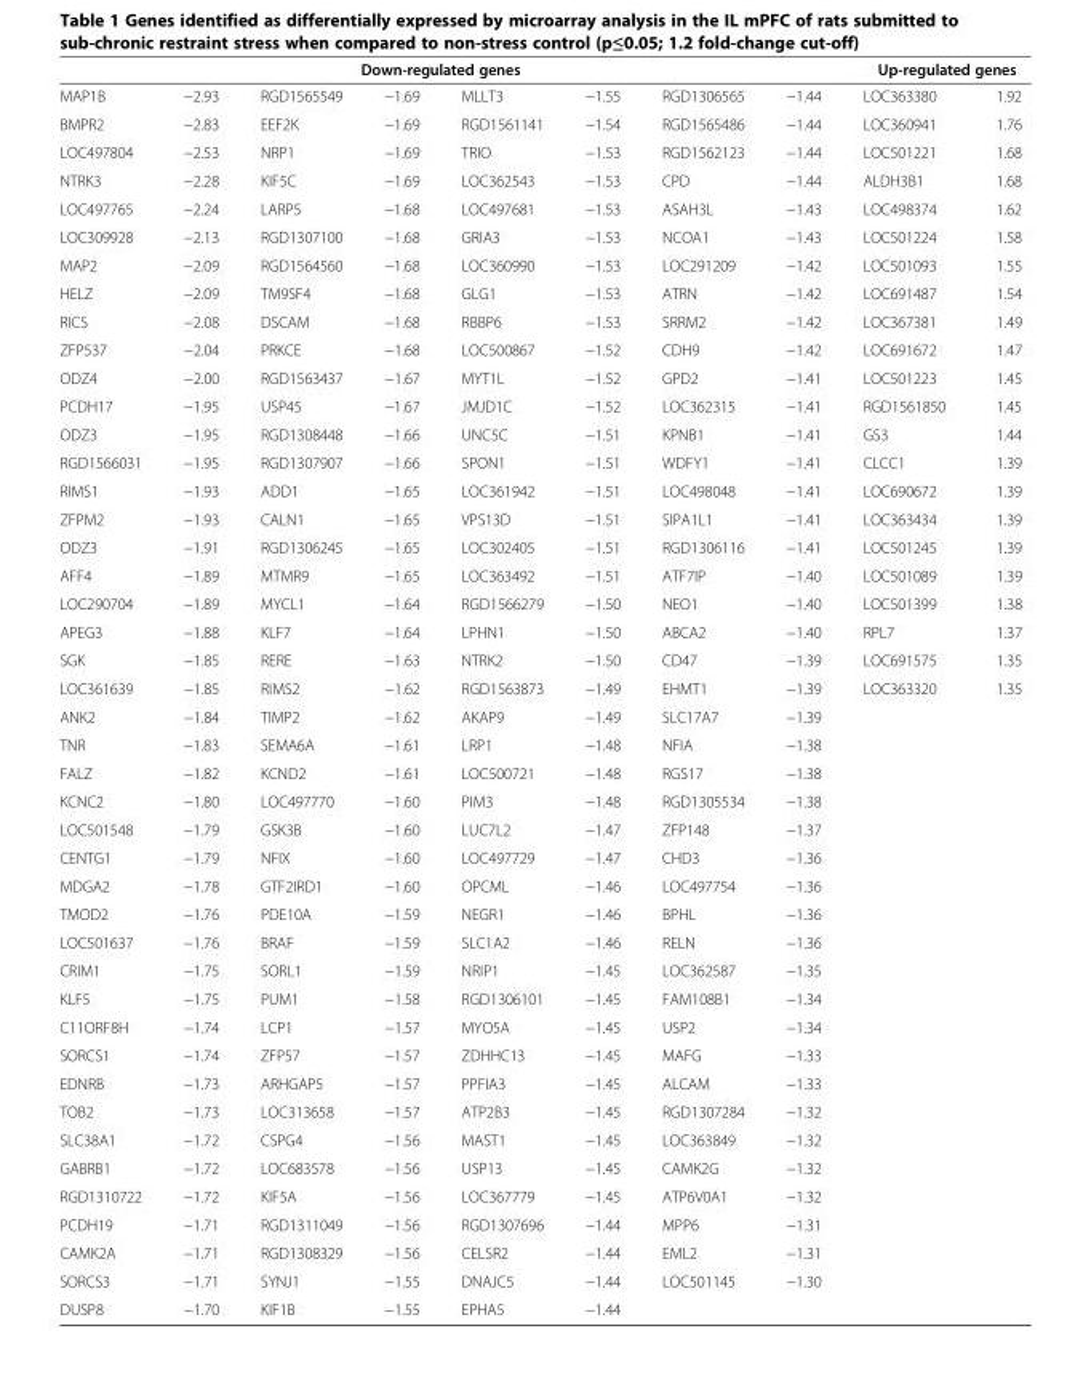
<table><thead><tr><td colspan="8">Down-regulated genes</td><td colspan="2">Up-regulated genes</td></tr><tr><td>MAP1B</td><td>−2.93</td><td>RGD1565549</td><td>−1.69</td><td>MLLT3</td><td>−1.55</td><td>RGD1306565</td><td>−1.44</td><td>LOC363380</td><td>1.92</td></tr></thead><tbody><tr><td>BMPR2</td><td>−2.83</td><td>EEF2K</td><td>−1.69</td><td>RGD1561141</td><td>−1.54</td><td>RGD1565486</td><td>−1.44</td><td>LOC360941</td><td>1.76</td></tr><tr><td>LOC497804</td><td>−2.53</td><td>NRP1</td><td>−1.69</td><td>TRIO</td><td>−1.53</td><td>RGD1562123</td><td>−1.44</td><td>LOC501221</td><td>1.68</td></tr><tr><td>NTRK3</td><td>−2.28</td><td>KIF5C</td><td>−1.69</td><td>LOC362543</td><td>−1.53</td><td>CPD</td><td>−1.44</td><td>ALDH3B1</td><td>1.68</td></tr><tr><td>LOC497765</td><td>−2.24</td><td>LARP5</td><td>−1.68</td><td>LOC497681</td><td>−1.53</td><td>ASAH3L</td><td>−1.43</td><td>LOC498374</td><td>1.62</td></tr><tr><td>LOC309928</td><td>−2.13</td><td>RGD1307100</td><td>−1.68</td><td>GRIA3</td><td>−1.53</td><td>NCOA1</td><td>−1.43</td><td>LOC501224</td><td>1.58</td></tr><tr><td>MAP2</td><td>−2.09</td><td>RGD1564560</td><td>−1.68</td><td>LOC360990</td><td>−1.53</td><td>LOC291209</td><td>−1.42</td><td>LOC501093</td><td>1.55</td></tr><tr><td>HELZ</td><td>−2.09</td><td>TM9SF4</td><td>−1.68</td><td>GLG1</td><td>−1.53</td><td>ATRN</td><td>−1.42</td><td>LOC691487</td><td>1.54</td></tr><tr><td>RICS</td><td>−2.08</td><td>DSCAM</td><td>−1.68</td><td>RBBP6</td><td>−1.53</td><td>SRRM2</td><td>−1.42</td><td>LOC367381</td><td>1.49</td></tr><tr><td>ZFP537</td><td>−2.04</td><td>PRKCE</td><td>−1.68</td><td>LOC500867</td><td>−1.52</td><td>CDH9</td><td>−1.42</td><td>LOC691672</td><td>1.47</td></tr><tr><td>ODZ4</td><td>−2.00</td><td>RGD1563437</td><td>−1.67</td><td>MYT1L</td><td>−1.52</td><td>GPD2</td><td>−1.41</td><td>LOC501223</td><td>1.45</td></tr><tr><td>PCDH17</td><td>−1.95</td><td>USP45</td><td>−1.67</td><td>JMJD1C</td><td>−1.52</td><td>LOC362315</td><td>−1.41</td><td>RGD1561850</td><td>1.45</td></tr><tr><td>ODZ3</td><td>−1.95</td><td>RGD1308448</td><td>−1.66</td><td>UNC5C</td><td>−1.51</td><td>KPNB1</td><td>−1.41</td><td>GS3</td><td>1.44</td></tr><tr><td>RGD1566031</td><td>−1.95</td><td>RGD1307907</td><td>−1.66</td><td>SPON1</td><td>−1.51</td><td>WDFY1</td><td>−1.41</td><td>CLCC1</td><td>1.39</td></tr><tr><td>RIMS1</td><td>−1.93</td><td>ADD1</td><td>−1.65</td><td>LOC361942</td><td>−1.51</td><td>LOC498048</td><td>−1.41</td><td>LOC690672</td><td>1.39</td></tr><tr><td>ZFPM2</td><td>−1.93</td><td>CALN1</td><td>−1.65</td><td>VPS13D</td><td>−1.51</td><td>SIPA1L1</td><td>−1.41</td><td>LOC363434</td><td>1.39</td></tr><tr><td>ODZ3</td><td>−1.91</td><td>RGD1306245</td><td>−1.65</td><td>LOC302405</td><td>−1.51</td><td>RGD1306116</td><td>−1.41</td><td>LOC501245</td><td>1.39</td></tr><tr><td>AFF4</td><td>−1.89</td><td>MTMR9</td><td>−1.65</td><td>LOC363492</td><td>−1.51</td><td>ATF7IP</td><td>−1.40</td><td>LOC501089</td><td>1.39</td></tr><tr><td>LOC290704</td><td>−1.89</td><td>MYCL1</td><td>−1.64</td><td>RGD1566279</td><td>−1.50</td><td>NEO1</td><td>−1.40</td><td>LOC501399</td><td>1.38</td></tr><tr><td>APEG3</td><td>−1.88</td><td>KLF7</td><td>−1.64</td><td>LPHN1</td><td>−1.50</td><td>ABCA2</td><td>−1.40</td><td>RPL7</td><td>1.37</td></tr><tr><td>SGK</td><td>−1.85</td><td>RERE</td><td>−1.63</td><td>NTRK2</td><td>−1.50</td><td>CD47</td><td>−1.39</td><td>LOC691575</td><td>1.35</td></tr><tr><td>LOC361639</td><td>−1.85</td><td>RIMS2</td><td>−1.62</td><td>RGD1563873</td><td>−1.49</td><td>EHMT1</td><td>−1.39</td><td>LOC363320</td><td>1.35</td></tr><tr><td>ANK2</td><td>−1.84</td><td>TIMP2</td><td>−1.62</td><td>AKAP9</td><td>−1.49</td><td>SLC17A7</td><td>−1.39</td><td></td><td></td></tr><tr><td>TNR</td><td>−1.83</td><td>SEMA6A</td><td>−1.61</td><td>LRP1</td><td>−1.48</td><td>NFIA</td><td>−1.38</td><td></td><td></td></tr><tr><td>FALZ</td><td>−1.82</td><td>KCND2</td><td>−1.61</td><td>LOC500721</td><td>−1.48</td><td>RGS17</td><td>−1.38</td><td></td><td></td></tr><tr><td>KCNC2</td><td>−1.80</td><td>LOC497770</td><td>−1.60</td><td>PIM3</td><td>−1.48</td><td>RGD1305534</td><td>−1.38</td><td></td><td></td></tr><tr><td>LOC501548</td><td>−1.79</td><td>GSK3B</td><td>−1.60</td><td>LUC7L2</td><td>−1.47</td><td>ZFP148</td><td>−1.37</td><td></td><td></td></tr><tr><td>CENTG1</td><td>−1.79</td><td>NFIX</td><td>−1.60</td><td>LOC497729</td><td>−1.47</td><td>CHD3</td><td>−1.36</td><td></td><td></td></tr><tr><td>MDGA2</td><td>−1.78</td><td>GTF2IRD1</td><td>−1.60</td><td>OPCML</td><td>−1.46</td><td>LOC497754</td><td>−1.36</td><td></td><td></td></tr><tr><td>TMOD2</td><td>−1.76</td><td>PDE10A</td><td>−1.59</td><td>NEGR1</td><td>−1.46</td><td>BPHL</td><td>−1.36</td><td></td><td></td></tr><tr><td>LOC501637</td><td>−1.76</td><td>BRAF</td><td>−1.59</td><td>SLC1A2</td><td>−1.46</td><td>RELN</td><td>−1.36</td><td></td><td></td></tr><tr><td>CRIM1</td><td>−1.75</td><td>SORL1</td><td>−1.59</td><td>NRIP1</td><td>−1.45</td><td>LOC362587</td><td>−1.35</td><td></td><td></td></tr><tr><td>KLF5</td><td>−1.75</td><td>PUM1</td><td>−1.58</td><td>RGD1306101</td><td>−1.45</td><td>FAM108B1</td><td>−1.34</td><td></td><td></td></tr><tr><td>C11ORF8H</td><td>−1.74</td><td>LCP1</td><td>−1.57</td><td>MYO5A</td><td>−1.45</td><td>USP2</td><td>−1.34</td><td></td><td></td></tr><tr><td>SORCS1</td><td>−1.74</td><td>ZFP57</td><td>−1.57</td><td>ZDHHC13</td><td>−1.45</td><td>MAFG</td><td>−1.33</td><td></td><td></td></tr><tr><td>EDNRB</td><td>−1.73</td><td>ARHGAP5</td><td>−1.57</td><td>PPFIA3</td><td>−1.45</td><td>ALCAM</td><td>−1.33</td><td></td><td></td></tr><tr><td>TOB2</td><td>−1.73</td><td>LOC313658</td><td>−1.57</td><td>ATP2B3</td><td>−1.45</td><td>RGD1307284</td><td>−1.32</td><td></td><td></td></tr><tr><td>SLC38A1</td><td>−1.72</td><td>CSPG4</td><td>−1.56</td><td>MAST1</td><td>−1.45</td><td>LOC363849</td><td>−1.32</td><td></td><td></td></tr><tr><td>GABRB1</td><td>−1.72</td><td>LOC683578</td><td>−1.56</td><td>USP13</td><td>−1.45</td><td>CAMK2G</td><td>−1.32</td><td></td><td></td></tr><tr><td>RGD1310722</td><td>−1.72</td><td>KIF5A</td><td>−1.56</td><td>LOC367779</td><td>−1.45</td><td>ATP6V0A1</td><td>−1.32</td><td></td><td></td></tr><tr><td>PCDH19</td><td>−1.71</td><td>RGD1311049</td><td>−1.56</td><td>RGD1307696</td><td>−1.44</td><td>MPP6</td><td>−1.31</td><td></td><td></td></tr><tr><td>CAMK2A</td><td>−1.71</td><td>RGD1308329</td><td>−1.56</td><td>CELSR2</td><td>−1.44</td><td>EML2</td><td>−1.31</td><td></td><td></td></tr><tr><td>SORCS3</td><td>−1.71</td><td>SYNJ1</td><td>−1.55</td><td>DNAJC5</td><td>−1.44</td><td>LOC501145</td><td>−1.30</td><td></td><td></td></tr><tr><td>DUSP8</td><td>−1.70</td><td>KIF1B</td><td>−1.55</td><td>EPHA5</td><td>−1.44</td><td></td><td></td><td></td><td></td></tr></tbody></table>